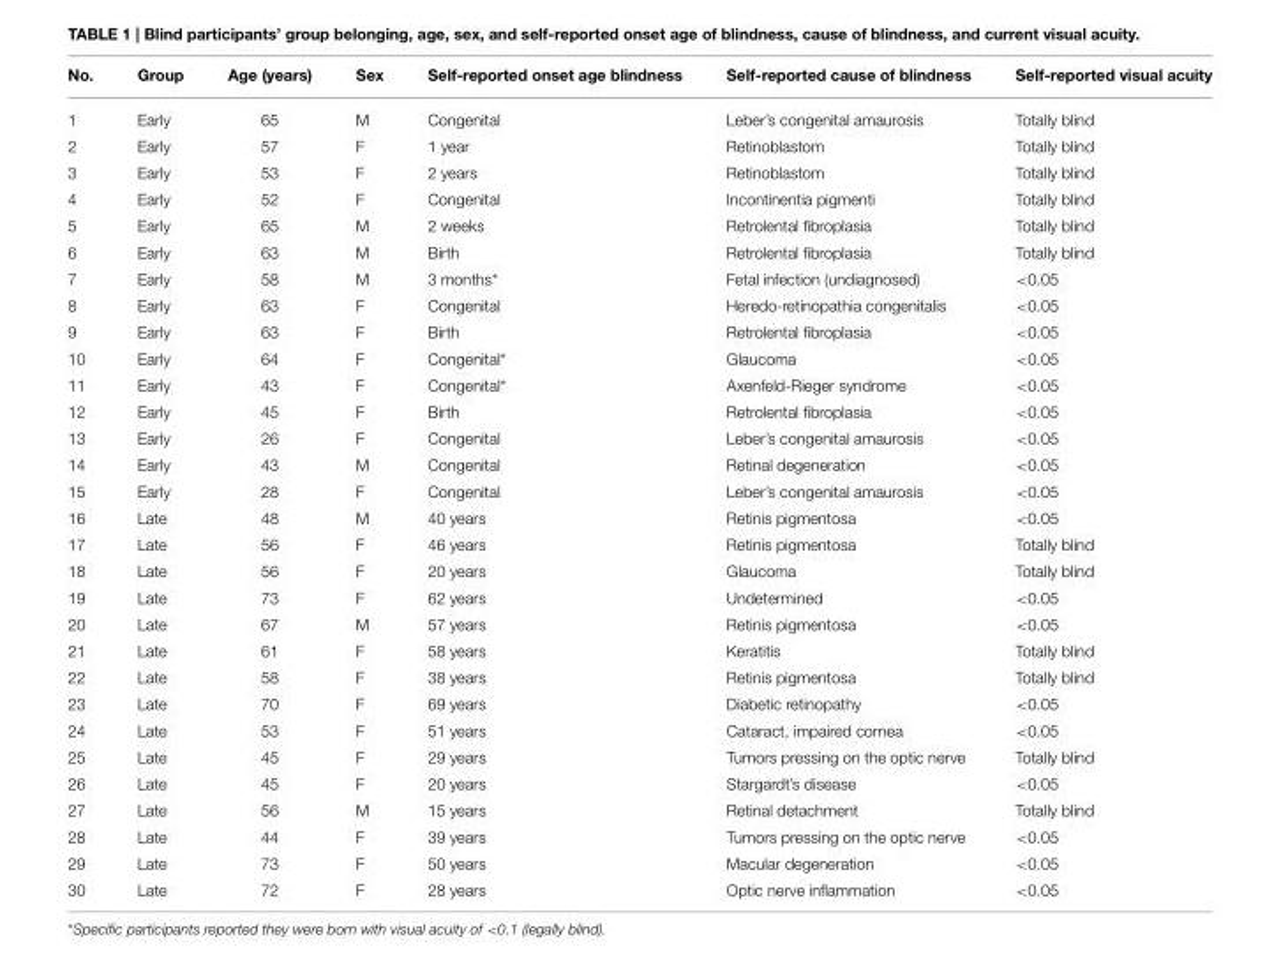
<table><thead><tr><td>No.</td><td>Group</td><td>Age (years)</td><td>Sex</td><td>Self-reported onset age blindness</td><td>Self-reported cause of blindness</td><td>Self-reported visual acuity</td></tr></thead><tbody><tr><td>1</td><td>Early</td><td>65</td><td>M</td><td>Congenital</td><td>Leber’s congenital amaurosis</td><td>Totally blind</td></tr><tr><td>2</td><td>Early</td><td>57</td><td>F</td><td>1 year</td><td>Retinoblastom</td><td>Totally blind</td></tr><tr><td>3</td><td>Early</td><td>53</td><td>F</td><td>2 years</td><td>Retinoblastom</td><td>Totally blind</td></tr><tr><td>4</td><td>Early</td><td>52</td><td>F</td><td>Congenital</td><td>Incontinentia pigmenti</td><td>Totally blind</td></tr><tr><td>5</td><td>Early</td><td>65</td><td>M</td><td>2 weeks</td><td>Retrolental fibroplasia</td><td>Totally blind</td></tr><tr><td>6</td><td>Early</td><td>63</td><td>M</td><td>Birth</td><td>Retrolental fibroplasia</td><td>Totally blind</td></tr><tr><td>7</td><td>Early</td><td>58</td><td>M</td><td>3 months*</td><td>Fetal infection (undiagnosed)</td><td>&lt;0.05</td></tr><tr><td>8</td><td>Early</td><td>63</td><td>F</td><td>Congenital</td><td>Heredo-retinopathia congenitalis</td><td>&lt;0.05</td></tr><tr><td>9</td><td>Early</td><td>63</td><td>F</td><td>Birth</td><td>Retrolental fibroplasia</td><td>&lt;0.05</td></tr><tr><td>10</td><td>Early</td><td>64</td><td>F</td><td>Congenital*</td><td>Glaucoma</td><td>&lt;0.05</td></tr><tr><td>11</td><td>Early</td><td>43</td><td>F</td><td>Congenital*</td><td>Axenfeld-Rieger syndrome</td><td>&lt;0.05</td></tr><tr><td>12</td><td>Early</td><td>45</td><td>F</td><td>Birth</td><td>Retrolental fibroplasia</td><td>&lt;0.05</td></tr><tr><td>13</td><td>Early</td><td>26</td><td>F</td><td>Congenital</td><td>Leber’s congenital amaurosis</td><td>&lt;0.05</td></tr><tr><td>14</td><td>Early</td><td>43</td><td>M</td><td>Congenital</td><td>Retinal degeneration</td><td>&lt;0.05</td></tr><tr><td>15</td><td>Early</td><td>28</td><td>F</td><td>Congenital</td><td>Leber’s congenital amaurosis</td><td>&lt;0.05</td></tr><tr><td>16</td><td>Late</td><td>48</td><td>M</td><td>40 years</td><td>Retinis pigmentosa</td><td>&lt;0.05</td></tr><tr><td>17</td><td>Late</td><td>56</td><td>F</td><td>46 years</td><td>Retinis pigmentosa</td><td>Totally blind</td></tr><tr><td>18</td><td>Late</td><td>56</td><td>F</td><td>20 years</td><td>Glaucoma</td><td>Totally blind</td></tr><tr><td>19</td><td>Late</td><td>73</td><td>F</td><td>62 years</td><td>Undetermined</td><td>&lt;0.05</td></tr><tr><td>20</td><td>Late</td><td>67</td><td>M</td><td>57 years</td><td>Retinis pigmentosa</td><td>&lt;0.05</td></tr><tr><td>21</td><td>Late</td><td>61</td><td>F</td><td>58 years</td><td>Keratitis</td><td>Totally blind</td></tr><tr><td>22</td><td>Late</td><td>58</td><td>F</td><td>38 years</td><td>Retinis pigmentosa</td><td>Totally blind</td></tr><tr><td>23</td><td>Late</td><td>70</td><td>F</td><td>69 years</td><td>Diabetic retinopathy</td><td>&lt;0.05</td></tr><tr><td>24</td><td>Late</td><td>53</td><td>F</td><td>51 years</td><td>Cataract, impaired cornea</td><td>&lt;0.05</td></tr><tr><td>25</td><td>Late</td><td>45</td><td>F</td><td>29 years</td><td>Tumors pressing on the optic nerve</td><td>Totally blind</td></tr><tr><td>26</td><td>Late</td><td>45</td><td>F</td><td>20 years</td><td>Stargardt’s disease</td><td>&lt;0.05</td></tr><tr><td>27</td><td>Late</td><td>56</td><td>M</td><td>15 years</td><td>Retinal detachment</td><td>Totally blind</td></tr><tr><td>28</td><td>Late</td><td>44</td><td>F</td><td>39 years</td><td>Tumors pressing on the optic nerve</td><td>&lt;0.05</td></tr><tr><td>29</td><td>Late</td><td>73</td><td>F</td><td>50 years</td><td>Macular degeneration</td><td>&lt;0.05</td></tr><tr><td>30</td><td>Late</td><td>72</td><td>F</td><td>28 years</td><td>Optic nerve inflammation</td><td>&lt;0.05</td></tr></tbody></table>